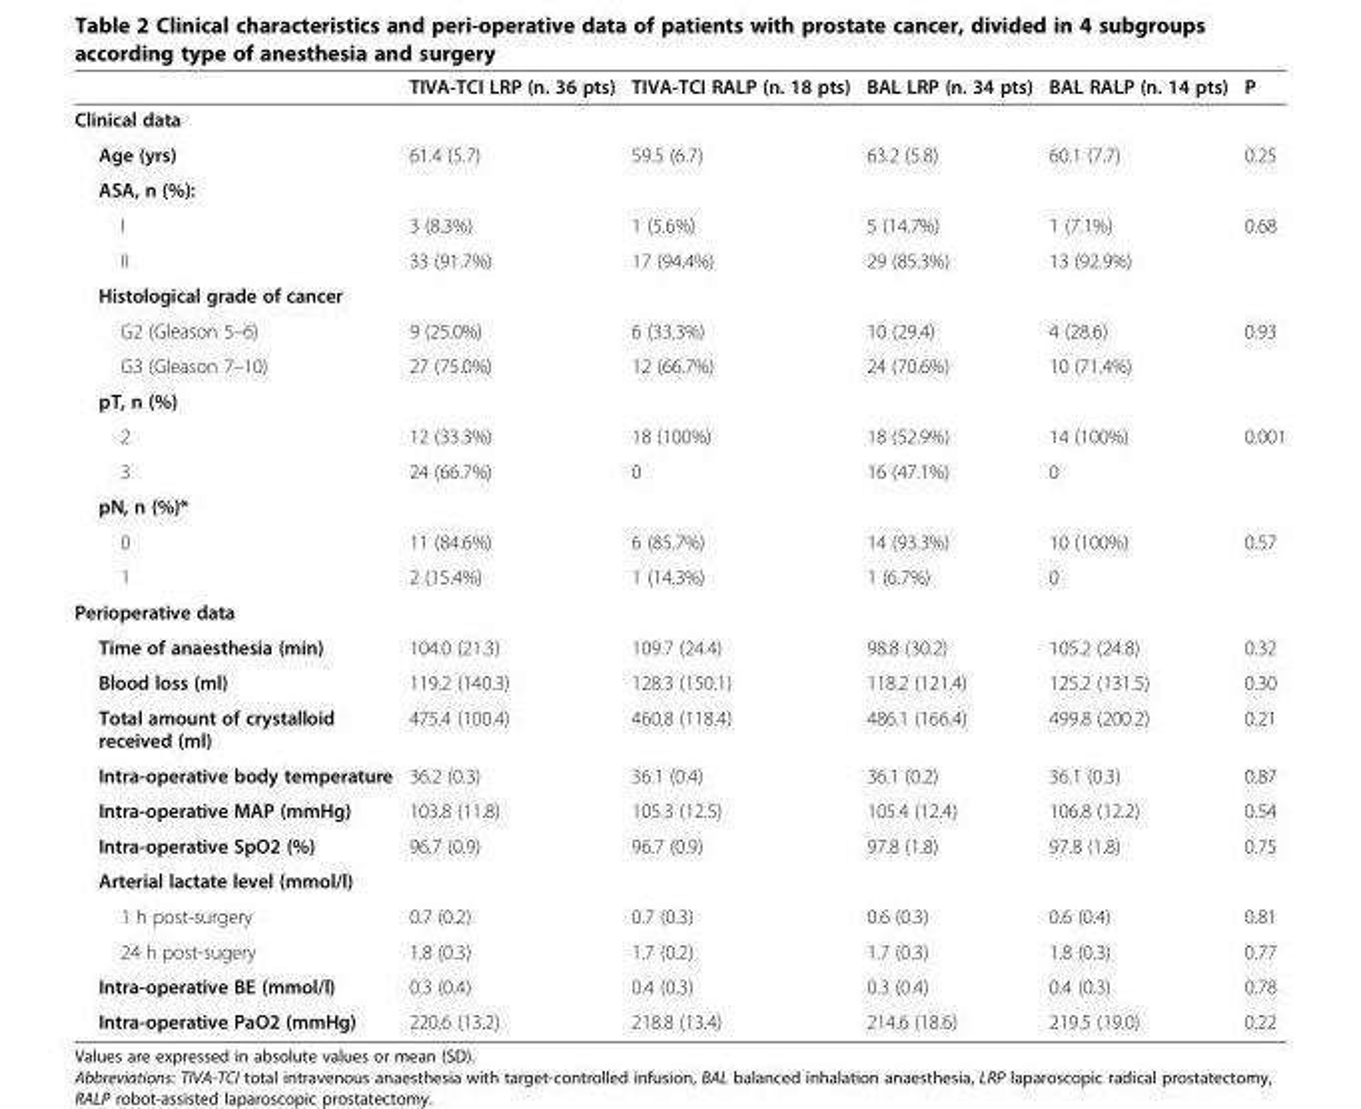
<table><thead><tr><td></td><td>TIVA-TCI LRP (n. 36 pts)</td><td>TIVA-TCI RALP (n. 18 pts)</td><td>BAL LRP (n. 34 pts)</td><td>BAL RALP (n. 14 pts)</td><td>P</td></tr></thead><tbody><tr><td colspan="6">Clinical data</td></tr><tr><td>Age (yrs)</td><td>61.4 (5.7)</td><td>59.5 (6.7)</td><td>63.2 (5.8)</td><td>60.1 (7.7)</td><td>0.25</td></tr><tr><td colspan="6">ASA, n (%):</td></tr><tr><td>I</td><td>3 (8.3%)</td><td>1 (5.6%)</td><td>5 (14.7%)</td><td>1 (7.1%)</td><td>0.68</td></tr><tr><td>II</td><td>33 (91.7%)</td><td>17 (94.4%)</td><td>29 (85.3%)</td><td>13 (92.9%)</td><td></td></tr><tr><td colspan="6">Histological grade of cancer</td></tr><tr><td>G2 (Gleason 5–6)</td><td>9 (25.0%)</td><td>6 (33.3%)</td><td>10 (29.4)</td><td>4 (28.6)</td><td>0.93</td></tr><tr><td>G3 (Gleason 7–10)</td><td>27 (75.0%)</td><td>12 (66.7%)</td><td>24 (70.6%)</td><td>10 (71.4%)</td><td></td></tr><tr><td colspan="6">pT, n (%)</td></tr><tr><td>2</td><td>12 (33.3%)</td><td>18 (100%)</td><td>18 (52.9%)</td><td>14 (100%)</td><td>0.001</td></tr><tr><td>3</td><td>24 (66.7%)</td><td>0</td><td>16 (47.1%)</td><td>0</td><td></td></tr><tr><td colspan="6">pN, n (%)*</td></tr><tr><td>0</td><td>11 (84.6%)</td><td>6 (85.7%)</td><td>14 (93.3%)</td><td>10 (100%)</td><td>0.57</td></tr><tr><td>1</td><td>2 (15.4%)</td><td>1 (14.3%)</td><td>1 (6.7%)</td><td>0</td><td></td></tr><tr><td colspan="6">Perioperative data</td></tr><tr><td>Time of anaesthesia (min)</td><td>104.0 (21.3)</td><td>109.7 (24.4)</td><td>98.8 (30.2)</td><td>105.2 (24.8)</td><td>0.32</td></tr><tr><td>Blood loss (ml)</td><td>119.2 (140.3)</td><td>128.3 (150.1)</td><td>118.2 (121.4)</td><td>125.2 (131.5)</td><td>0.30</td></tr><tr><td>Total amount of crystalloid received (ml)</td><td>475.4 (100.4)</td><td>460.8 (118.4)</td><td>486.1 (166.4)</td><td>499.8 (200.2)</td><td>0.21</td></tr><tr><td>Intra-operative body temperature</td><td>36.2 (0.3)</td><td>36.1 (0.4)</td><td>36.1 (0.2)</td><td>36.1 (0.3)</td><td>0.87</td></tr><tr><td>Intra-operative MAP (mmHg)</td><td>103.8 (11.8)</td><td>105.3 (12.5)</td><td>105.4 (12.4)</td><td>106.8 (12.2)</td><td>0.54</td></tr><tr><td>Intra-operative SpO2 (%)</td><td>96.7 (0.9)</td><td>96.7 (0.9)</td><td>97.8 (1.8)</td><td>97.8 (1.8)</td><td>0.75</td></tr><tr><td colspan="6">Arterial lactate level (mmol/l)</td></tr><tr><td>1 h post-surgery</td><td>0.7 (0.2)</td><td>0.7 (0.3)</td><td>0.6 (0.3)</td><td>0.6 (0.4)</td><td>0.81</td></tr><tr><td>24 h post-sugery</td><td>1.8 (0.3)</td><td>1.7 (0.2)</td><td>1.7 (0.3)</td><td>1.8 (0.3)</td><td>0.77</td></tr><tr><td>Intra-operative BE (mmol/l)</td><td>0.3 (0.4)</td><td>0.4 (0.3)</td><td>0.3 (0.4)</td><td>0.4 (0.3)</td><td>0.78</td></tr><tr><td>Intra-operative PaO2 (mmHg)</td><td>220.6 (13.2)</td><td>218.8 (13.4)</td><td>214.6 (18.6)</td><td>219.5 (19.0)</td><td>0.22</td></tr></tbody></table>